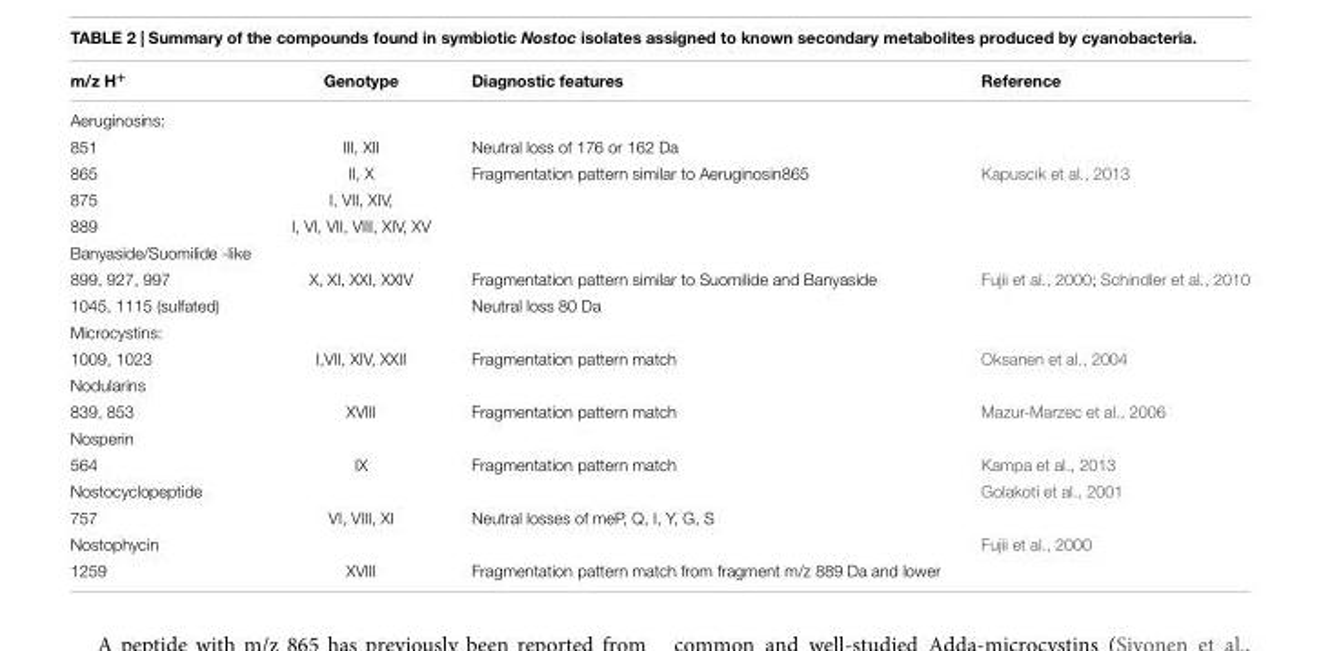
<table><thead><tr><td>m/z H<sup>+</sup></td><td>Genotype</td><td>Diagnostic features</td><td>Reference</td></tr></thead><tbody><tr><td colspan="4">Aeruginosins:</td></tr><tr><td>851</td><td>III, XII</td><td>Neutral loss of 176 or 162 Da</td><td></td></tr><tr><td>865</td><td>II, X</td><td>Fragmentation pattern similar to Aeruginosin865</td><td>Kapuscik et al., 2013</td></tr><tr><td>875</td><td>I, VII, XIV,</td><td></td><td></td></tr><tr><td>889</td><td>I, VI, VII, VIII, XIV, XV</td><td></td><td></td></tr><tr><td colspan="4">Banyaside/Suomilide -like</td></tr><tr><td>899, 927, 997</td><td>X, XI, XXI, XXIV</td><td>Fragmentation pattern similar to Suomilide and Banyaside</td><td>Fujii et al., 2000; Schindler et al., 2010</td></tr><tr><td>1045, 1115 (sulfated)</td><td></td><td>Neutral loss 80 Da</td><td></td></tr><tr><td colspan="4">Microcystins:</td></tr><tr><td>1009, 1023</td><td>I,VII, XIV, XXII</td><td>Fragmentation pattern match</td><td>Oksanen et al., 2004</td></tr><tr><td colspan="4">Nodularins</td></tr><tr><td>839, 853</td><td>XVIII</td><td>Fragmentation pattern match</td><td>Mazur-Marzec et al., 2006</td></tr><tr><td colspan="4">Nosperin</td></tr><tr><td>564</td><td>IX</td><td>Fragmentation pattern match</td><td>Kampa et al., 2013</td></tr><tr><td>Nostocyclopeptide</td><td></td><td></td><td>Golakoti et al., 2001</td></tr><tr><td>757</td><td>VI, VIII, XI</td><td>Neutral losses of meP, Q, I, Y, G, S</td><td></td></tr><tr><td>Nostophycin</td><td></td><td></td><td>Fujii et al., 2000</td></tr><tr><td>1259</td><td>XVIII</td><td>Fragmentation pattern match from fragment m/z 889 Da and lower</td><td></td></tr></tbody></table>